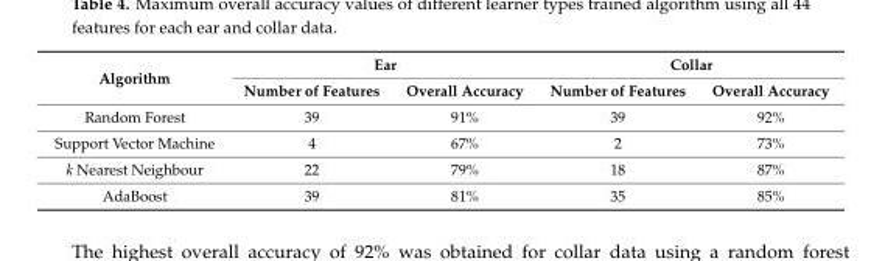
<table><thead><tr><td rowspan="2">Algorithm</td><td colspan="2">Ear</td><td colspan="2">Collar</td></tr><tr><td>Number of Features</td><td>Overall Accuracy</td><td>Number of Features</td><td>Overall Accuracy</td></tr></thead><tbody><tr><td>Random Forest</td><td>39</td><td>91%</td><td>39</td><td>92%</td></tr><tr><td>Support Vector Machine</td><td>4</td><td>67%</td><td>2</td><td>73%</td></tr><tr><td>k Nearest Neighbour</td><td>22</td><td>79%</td><td>18</td><td>87%</td></tr><tr><td>AdaBoost</td><td>39</td><td>81%</td><td>35</td><td>85%</td></tr></tbody></table>